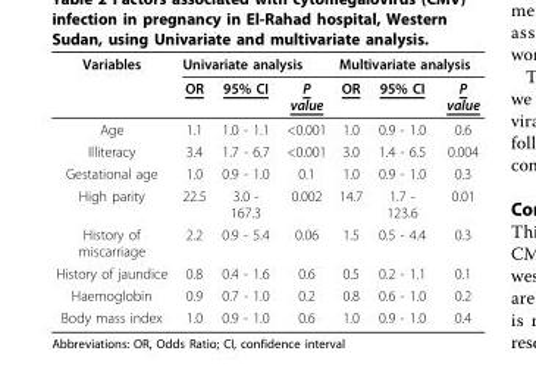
<table><thead><tr><td rowspan="2">Variables</td><td colspan="3">Univariate analysis</td><td colspan="3">Multivariate analysis</td></tr><tr><td>OR</td><td>95% CI</td><td>P value</td><td>OR</td><td>95% CI</td><td>P value</td></tr></thead><tbody><tr><td>Age</td><td>1.1</td><td>1.0 - 1.1</td><td>&lt;0.001</td><td>1.0</td><td>0.9 - 1.0</td><td>0.6</td></tr><tr><td>Illiteracy</td><td>3.4</td><td>1.7 - 6.7</td><td>&lt;0.001</td><td>3.0</td><td>1.4 - 6.5</td><td>0.004</td></tr><tr><td>Gestational age</td><td>1.0</td><td>0.9 - 1.0</td><td>0.1</td><td>1.0</td><td>0.9 - 1.0</td><td>0.3</td></tr><tr><td>High parity</td><td>22.5</td><td>3.0 - 167.3</td><td>0.002</td><td>14.7</td><td>1.7 - 123.6</td><td>0.01</td></tr><tr><td>History of miscarriage</td><td>2.2</td><td>0.9 - 5.4</td><td>0.06</td><td>1.5</td><td>0.5 - 4.4</td><td>0.3</td></tr><tr><td>History of jaundice</td><td>0.8</td><td>0.4 - 1.6</td><td>0.6</td><td>0.5</td><td>0.2 - 1.1</td><td>0.1</td></tr><tr><td>Haemoglobin</td><td>0.9</td><td>0.7 - 1.0</td><td>0.2</td><td>0.8</td><td>0.6 - 1.0</td><td>0.2</td></tr><tr><td>Body mass index</td><td>1.0</td><td>0.9 - 1.0</td><td>0.6</td><td>1.0</td><td>0.9 - 1.0</td><td>0.4</td></tr></tbody></table>